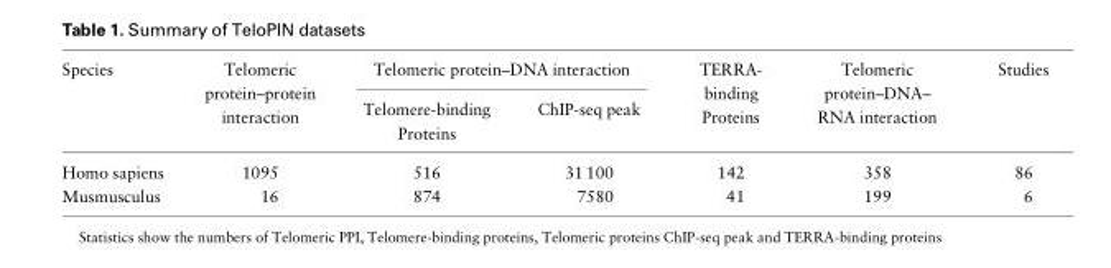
<table><thead><tr><td rowspan="2">Species</td><td rowspan="2">Telomeric protein–protein interaction</td><td colspan="2">Telomeric protein–DNA interaction</td><td rowspan="2">TERRA- binding Proteins</td><td rowspan="2">Telomeric protein–DNA– RNA interaction</td><td rowspan="2">Studies</td></tr><tr><td>Telomere-binding Proteins</td><td>ChIP-seq peak</td></tr></thead><tbody><tr><td>Homo sapiens</td><td>1095</td><td>516</td><td>31 100</td><td>142</td><td>358</td><td>86</td></tr><tr><td>Musmusculus</td><td>16</td><td>874</td><td>7580</td><td>41</td><td>199</td><td>6</td></tr></tbody></table>